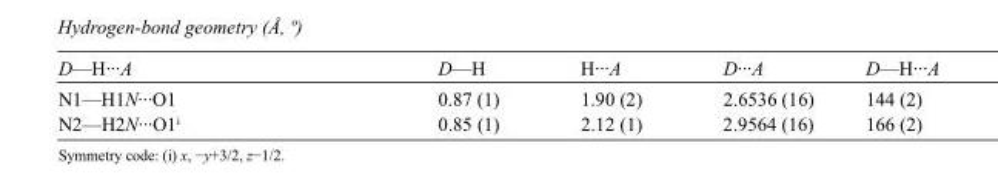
<table><tbody><tr><td>D—H···A</td><td>D—H</td><td>H···A</td><td>D···A</td><td>D—H···A</td></tr><tr><td>N1—H1N···O1</td><td>0.87 (1)</td><td>1.90 (2)</td><td>2.6536 (16)</td><td>144 (2)</td></tr><tr><td>N2—H2N···O1<sup>i</sup></td><td>0.85 (1)</td><td>2.12 (1)</td><td>2.9564 (16)</td><td>166 (2)</td></tr></tbody></table>